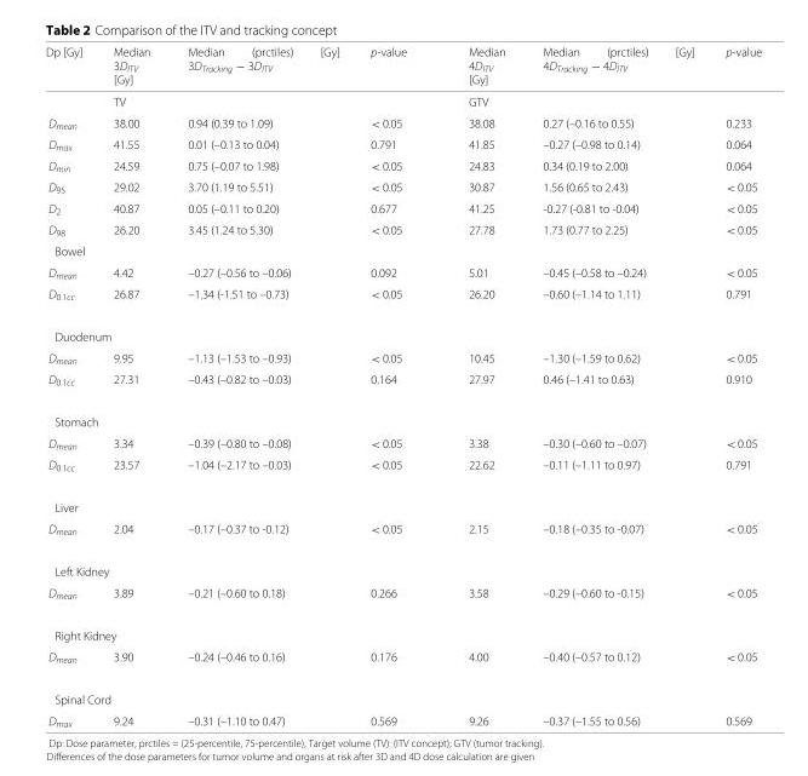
<table><thead><tr><td>Dp [Gy]</td><td>Median 3D<sub>ITV</sub> [Gy]</td><td>Median (prctiles) [Gy] 3D<sub>Tracking</sub> − 3D<sub>ITV</sub></td><td>p-value</td><td>Median 4D<sub>ITV</sub> [Gy]</td><td>Median (prctiles) [Gy] 4D<sub>Tracking</sub> − 4D<sub>ITV</sub></td><td>p-value</td></tr></thead><tbody><tr><td></td><td colspan="3">TV</td><td colspan="3">GTV</td></tr><tr><td>D<sub>mean</sub></td><td>38.00</td><td>0.94 (0.39 to 1.09)</td><td>&lt; 0.05</td><td>38.08</td><td>0.27 (–0.16 to 0.55)</td><td>0.233</td></tr><tr><td>D<sub>max</sub></td><td>41.55</td><td>0.01 (–0.13 to 0.04)</td><td>0.791</td><td>41.85</td><td>–0.27 (–0.98 to 0.14)</td><td>0.064</td></tr><tr><td>D<sub>min</sub></td><td>24.59</td><td>0.75 (–0.07 to 1.98)</td><td>&lt; 0.05</td><td>24.83</td><td>0.34 (0.19 to 2.00)</td><td>0.064</td></tr><tr><td>D<sub>95</sub></td><td>29.02</td><td>3.70 (1.19 to 5.51)</td><td>&lt; 0.05</td><td>30.87</td><td>1.56 (0.65 to 2.43)</td><td>&lt; 0.05</td></tr><tr><td>D<sub>2</sub></td><td>40.87</td><td>0.05 (–0.11 to 0.20)</td><td>0.677</td><td>41.25</td><td>-0.27 (-0.81 to -0.04)</td><td>&lt; 0.05</td></tr><tr><td>D<sub>98</sub></td><td>26.20</td><td>3.45 (1.24 to 5.30)</td><td>&lt; 0.05</td><td>27.78</td><td>1.73 (0.77 to 2.25)</td><td>&lt; 0.05</td></tr><tr><td colspan="7">Bowel</td></tr><tr><td>D<sub>mean</sub></td><td>4.42</td><td>–0.27 (–0.56 to –0.06)</td><td>0.092</td><td>5.01</td><td>–0.45 (–0.58 to –0.24)</td><td>&lt; 0.05</td></tr><tr><td>D<sub>0.1cc</sub></td><td>26.87</td><td>–1.34 (-1.51 to –0.73)</td><td>&lt; 0.05</td><td>26.20</td><td>–0.60 (–1.14 to 1.11)</td><td>0.791</td></tr><tr><td colspan="7">Duodenum</td></tr><tr><td>D<sub>mean</sub></td><td>9.95</td><td>–1.13 (–1.53 to –0.93)</td><td>&lt; 0.05</td><td>10.45</td><td>–1.30 (–1.59 to 0.62)</td><td>&lt; 0.05</td></tr><tr><td>D<sub>0.1cc</sub></td><td>27.31</td><td>–0.43 (–0.82 to –0.03)</td><td>0.164</td><td>27.97</td><td>0.46 (–1.41 to 0.63)</td><td>0.910</td></tr><tr><td colspan="7">Stomach</td></tr><tr><td>D<sub>mean</sub></td><td>3.34</td><td>–0.39 (–0.80 to –0.08)</td><td>&lt; 0.05</td><td>3.38</td><td>–0.30 (–0.60 to –0.07)</td><td>&lt; 0.05</td></tr><tr><td>D<sub>0.1cc</sub></td><td>23.57</td><td>–1.04 (–2.17 to –0.03)</td><td>&lt; 0.05</td><td>22.62</td><td>–0.11 (–1.11 to 0.97)</td><td>0.791</td></tr><tr><td colspan="7">Liver</td></tr><tr><td>D<sub>mean</sub></td><td>2.04</td><td>–0.17 (–0.37 to -0.12)</td><td>&lt; 0.05</td><td>2.15</td><td>–0.18 (–0.35 to -0.07)</td><td>&lt; 0.05</td></tr><tr><td colspan="7">Left Kidney</td></tr><tr><td>D<sub>mean</sub></td><td>3.89</td><td>–0.21 (–0.60 to 0.18)</td><td>0.266</td><td>3.58</td><td>–0.29 (–0.60 to -0.15)</td><td>&lt; 0.05</td></tr><tr><td colspan="7">Right Kidney</td></tr><tr><td>D<sub>mean</sub></td><td>3.90</td><td>–0.24 (–0.46 to 0.16)</td><td>0.176</td><td>4.00</td><td>–0.40 (–0.57 to 0.12)</td><td>&lt; 0.05</td></tr><tr><td colspan="7">Spinal Cord</td></tr><tr><td>D<sub>max</sub></td><td>9.24</td><td>–0.31 (–1.10 to 0.47)</td><td>0.569</td><td>9.26</td><td>–0.37 (–1.55 to 0.56)</td><td>0.569</td></tr></tbody></table>